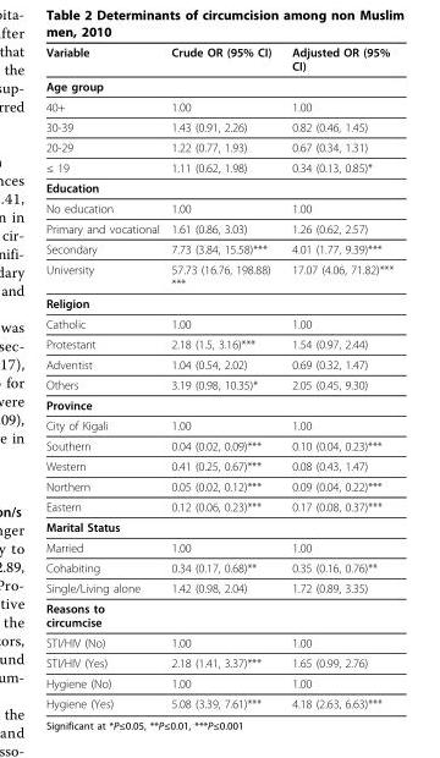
<table><thead><tr><td>Variable</td><td>Crude OR (95% CI)</td><td>Adjusted OR (95% CI)</td></tr></thead><tbody><tr><td colspan="3">Age group</td></tr><tr><td>40+</td><td>1.00</td><td>1.00</td></tr><tr><td>30-39</td><td>1.43 (0.91, 2.26)</td><td>0.82 (0.46, 1.45)</td></tr><tr><td>20-29</td><td>1.22 (0.77, 1.93)</td><td>0.67 (0.34, 1.31)</td></tr><tr><td>≤ 19</td><td>1.11 (0.62, 1.98)</td><td>0.34 (0.13, 0.85)*</td></tr><tr><td colspan="3">Education</td></tr><tr><td>No education</td><td>1.00</td><td>1.00</td></tr><tr><td>Primary and vocational</td><td>1.61 (0.86, 3.03)</td><td>1.26 (0.62, 2.57)</td></tr><tr><td>Secondary</td><td>7.73 (3.84, 15.58)***</td><td>4.01 (1.77, 9.39)***</td></tr><tr><td>University</td><td>57.73 (16.76, 198.88) ***</td><td>17.07 (4.06, 71.82)***</td></tr><tr><td colspan="3">Religion</td></tr><tr><td>Catholic</td><td>1.00</td><td>1.00</td></tr><tr><td>Protestant</td><td>2.18 (1.5, 3.16)***</td><td>1.54 (0.97, 2.44)</td></tr><tr><td>Adventist</td><td>1.04 (0.54, 2.02)</td><td>0.69 (0.32, 1.47)</td></tr><tr><td>Others</td><td>3.19 (0.98, 10.35)*</td><td>2.05 (0.45, 9.30)</td></tr><tr><td colspan="3">Province</td></tr><tr><td>City of Kigali</td><td>1.00</td><td>1.00</td></tr><tr><td>Southern</td><td>0.04 (0.02, 0.09)***</td><td>0.10 (0.04, 0.23)***</td></tr><tr><td>Western</td><td>0.41 (0.25, 0.67)***</td><td>0.08 (0.43, 1.47)</td></tr><tr><td>Northern</td><td>0.05 (0.02, 0.12)***</td><td>0.09 (0.04, 0.22)***</td></tr><tr><td>Eastern</td><td>0.12 (0.06, 0.23)***</td><td>0.17 (0.08, 0.37)***</td></tr><tr><td colspan="3">Marital Status</td></tr><tr><td>Married</td><td>1.00</td><td>1.00</td></tr><tr><td>Cohabiting</td><td>0.34 (0.17, 0.68)**</td><td>0.35 (0.16, 0.76)**</td></tr><tr><td>Single/Living alone</td><td>1.42 (0.98, 2.04)</td><td>1.72 (0.89, 3.35)</td></tr><tr><td colspan="3">Reasons to circumcise</td></tr><tr><td>STI/HIV (No)</td><td>1.00</td><td>1.00</td></tr><tr><td>STI/HIV (Yes)</td><td>2.18 (1.41, 3.37)***</td><td>1.65 (0.99, 2.76)</td></tr><tr><td>Hygiene (No)</td><td>1.00</td><td>1.00</td></tr><tr><td>Hygiene (Yes)</td><td>5.08 (3.39, 7.61)***</td><td>4.18 (2.63, 6.63)***</td></tr></tbody></table>